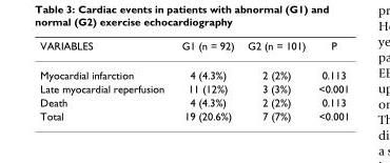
<table><thead><tr><td>VARIABLES</td><td>G1 (n = 92)</td><td>G2 (n = 101)</td><td>P</td></tr></thead><tbody><tr><td>Myocardial infarction</td><td>4 (4.3%)</td><td>2 (2%)</td><td>0.113</td></tr><tr><td>Late myocardial reperfusion</td><td>11 (12%)</td><td>3 (3%)</td><td>&lt;0.001</td></tr><tr><td>Death</td><td>4 (4.3%)</td><td>2 (2%)</td><td>0.113</td></tr><tr><td>Total</td><td>19 (20.6%)</td><td>7 (7%)</td><td>&lt;0.001</td></tr></tbody></table>